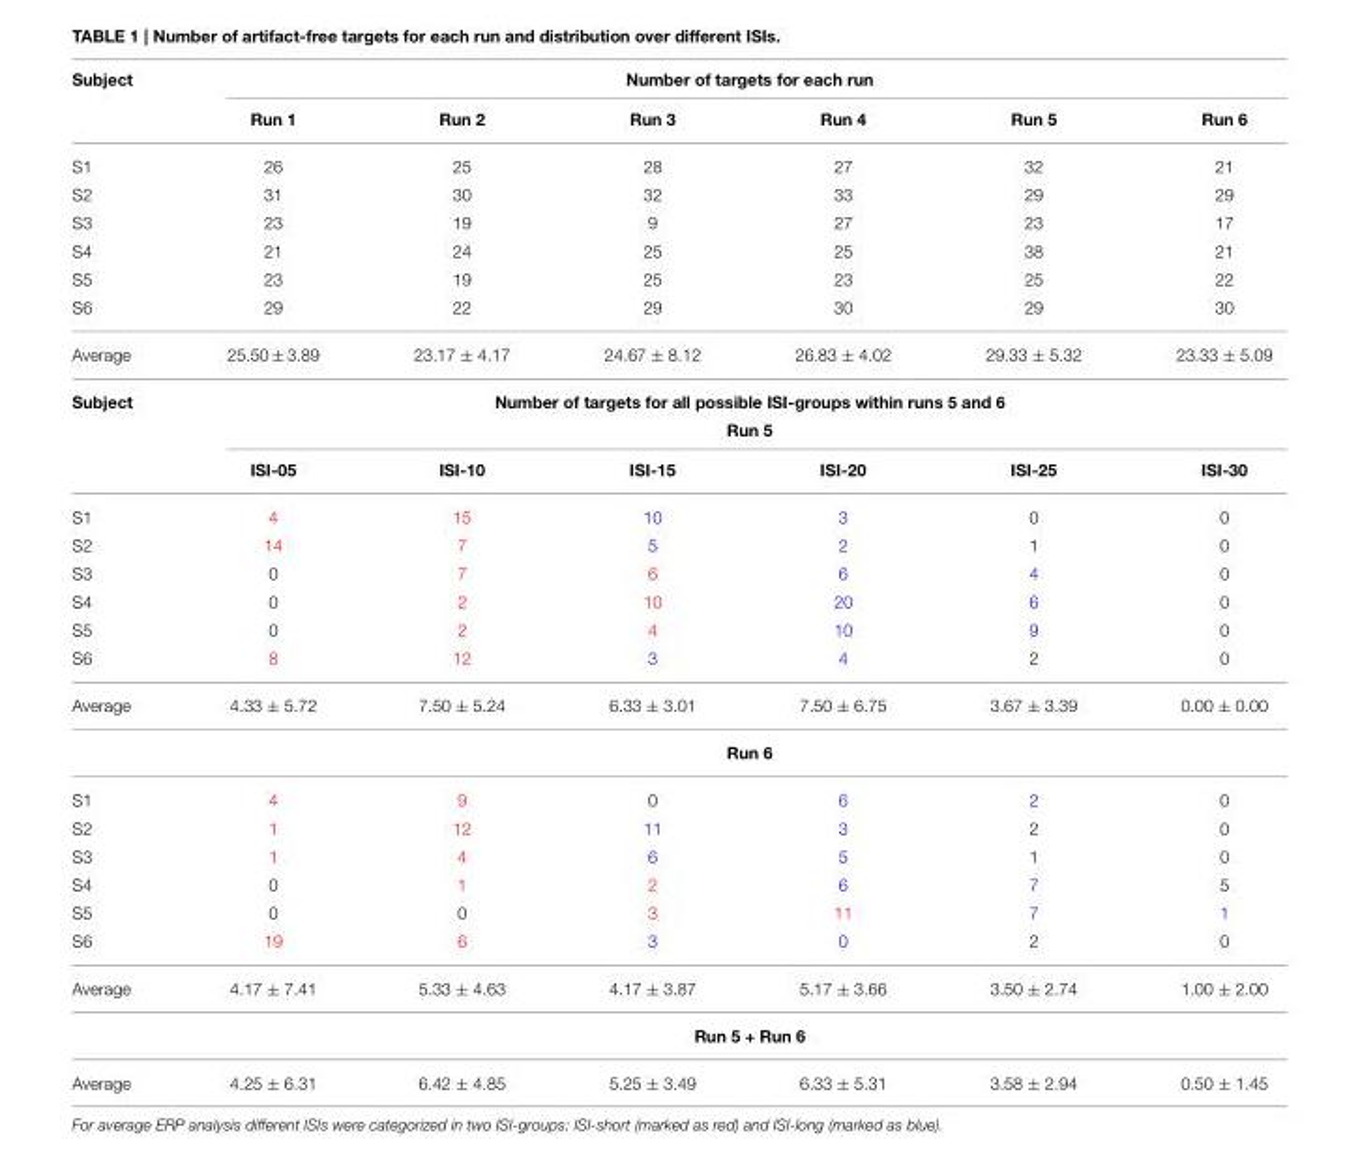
<table><thead><tr><td rowspan="2">Subject</td><td colspan="6">Number of targets for each run</td></tr><tr><td>Run 1</td><td>Run 2</td><td>Run 3</td><td>Run 4</td><td>Run 5</td><td>Run 6</td></tr></thead><tbody><tr><td>S1</td><td>26</td><td>25</td><td>28</td><td>27</td><td>32</td><td>21</td></tr><tr><td>S2</td><td>31</td><td>30</td><td>32</td><td>33</td><td>29</td><td>29</td></tr><tr><td>S3</td><td>23</td><td>19</td><td>9</td><td>27</td><td>23</td><td>17</td></tr><tr><td>S4</td><td>21</td><td>24</td><td>25</td><td>25</td><td>38</td><td>21</td></tr><tr><td>S5</td><td>23</td><td>19</td><td>25</td><td>23</td><td>25</td><td>22</td></tr><tr><td>S6</td><td>29</td><td>22</td><td>29</td><td>30</td><td>29</td><td>30</td></tr><tr><td>Average</td><td>25.50 ± 3.89</td><td>23.17 ± 4.17</td><td>24.67 ± 8.12</td><td>26.83 ± 4.02</td><td>29.33 ± 5.32</td><td>23.33 ± 5.09</td></tr><tr><td rowspan="3">Subject</td><td colspan="6">Number of targets for all possible ISI-groups within runs 5 and 6</td></tr><tr><td colspan="6">Run 5</td></tr><tr><td>ISI-05</td><td>ISI-10</td><td>ISI-15</td><td>ISI-20</td><td>ISI-25</td><td>ISI-30</td></tr><tr><td>S1</td><td>4</td><td>15</td><td>10</td><td>3</td><td>0</td><td>0</td></tr><tr><td>S2</td><td>14</td><td>7</td><td>5</td><td>2</td><td>1</td><td>0</td></tr><tr><td>S3</td><td>0</td><td>7</td><td>6</td><td>6</td><td>4</td><td>0</td></tr><tr><td>S4</td><td>0</td><td>2</td><td>10</td><td>20</td><td>6</td><td>0</td></tr><tr><td>S5</td><td>0</td><td>2</td><td>4</td><td>10</td><td>9</td><td>0</td></tr><tr><td>S6</td><td>8</td><td>12</td><td>3</td><td>4</td><td>2</td><td>0</td></tr><tr><td rowspan="2">Average</td><td>4.33 ± 5.72</td><td>7.50 ± 5.24</td><td>6.33 ± 3.01</td><td>7.50 ± 6.75</td><td>3.67 ± 3.39</td><td>0.00 ± 0.00</td></tr><tr><td colspan="6">Run 6</td></tr><tr><td>S1</td><td>4</td><td>9</td><td>0</td><td>6</td><td>2</td><td>0</td></tr><tr><td>S2</td><td>1</td><td>12</td><td>11</td><td>3</td><td>2</td><td>0</td></tr><tr><td>S3</td><td>1</td><td>4</td><td>6</td><td>5</td><td>1</td><td>0</td></tr><tr><td>S4</td><td>0</td><td>1</td><td>2</td><td>6</td><td>7</td><td>5</td></tr><tr><td>S5</td><td>0</td><td>0</td><td>3</td><td>11</td><td>7</td><td>1</td></tr><tr><td>S6</td><td>19</td><td>6</td><td>3</td><td>0</td><td>2</td><td>0</td></tr><tr><td rowspan="2">Average</td><td>4.17 ± 7.41</td><td>5.33 ± 4.63</td><td>4.17 ± 3.87</td><td>5.17 ± 3.66</td><td>3.50 ± 2.74</td><td>1.00 ± 2.00</td></tr><tr><td colspan="6">Run 5 + Run 6</td></tr><tr><td>Average</td><td>4.25 ± 6.31</td><td>6.42 ± 4.85</td><td>5.25 ± 3.49</td><td>6.33 ± 5.31</td><td>3.58 ± 2.94</td><td>0.50 ± 1.45</td></tr></tbody></table>